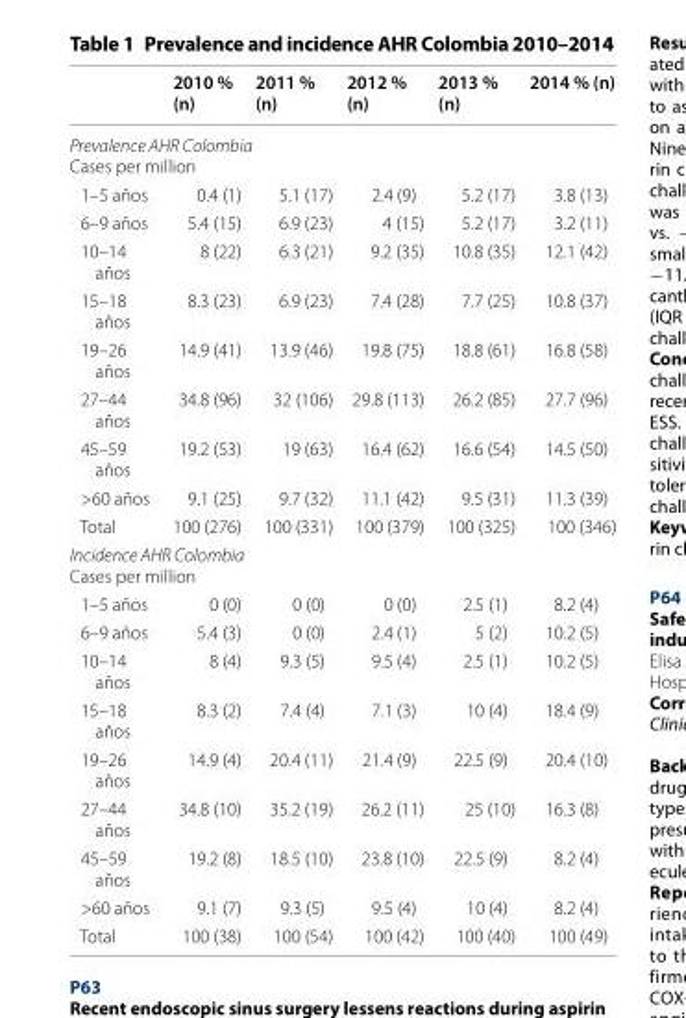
<table><thead><tr><td></td><td>2010 % (n)</td><td>2011 % (n)</td><td>2012 % (n)</td><td>2013 % (n)</td><td>2014 % (n)</td></tr></thead><tbody><tr><td colspan="6">Prevalence AHR Colombia Cases per million</td></tr><tr><td>1–5 años</td><td>0.4 (1)</td><td>5.1 (17)</td><td>2.4 (9)</td><td>5.2 (17)</td><td>3.8 (13)</td></tr><tr><td>6–9 años</td><td>5.4 (15)</td><td>6.9 (23)</td><td>4 (15)</td><td>5.2 (17)</td><td>3.2 (11)</td></tr><tr><td>10–14 años</td><td>8 (22)</td><td>6.3 (21)</td><td>9.2 (35)</td><td>10.8 (35)</td><td>12.1 (42)</td></tr><tr><td>15–18 años</td><td>8.3 (23)</td><td>6.9 (23)</td><td>7.4 (28)</td><td>7.7 (25)</td><td>10.8 (37)</td></tr><tr><td>19–26 años</td><td>14.9 (41)</td><td>13.9 (46)</td><td>19.8 (75)</td><td>18.8 (61)</td><td>16.8 (58)</td></tr><tr><td>27–44 años</td><td>34.8 (96)</td><td>32 (106)</td><td>29.8 (113)</td><td>26.2 (85)</td><td>27.7 (96)</td></tr><tr><td>45–59 años</td><td>19.2 (53)</td><td>19 (63)</td><td>16.4 (62)</td><td>16.6 (54)</td><td>14.5 (50)</td></tr><tr><td>&gt;60 años</td><td>9.1 (25)</td><td>9.7 (32)</td><td>11.1 (42)</td><td>9.5 (31)</td><td>11.3 (39)</td></tr><tr><td>Total</td><td>100 (276)</td><td>100 (331)</td><td>100 (379)</td><td>100 (325)</td><td>100 (346)</td></tr><tr><td colspan="6">Incidence AHR Colombia Cases per million</td></tr><tr><td>1–5 años</td><td>0 (0)</td><td>0 (0)</td><td>0 (0)</td><td>2.5 (1)</td><td>8.2 (4)</td></tr><tr><td>6–9 años</td><td>5.4 (3)</td><td>0 (0)</td><td>2.4 (1)</td><td>5 (2)</td><td>10.2 (5)</td></tr><tr><td>10–14 años</td><td>8 (4)</td><td>9.3 (5)</td><td>9.5 (4)</td><td>2.5 (1)</td><td>10.2 (5)</td></tr><tr><td>15–18 años</td><td>8.3 (2)</td><td>7.4 (4)</td><td>7.1 (3)</td><td>10 (4)</td><td>18.4 (9)</td></tr><tr><td>19–26 años</td><td>14.9 (4)</td><td>20.4 (11)</td><td>21.4 (9)</td><td>22.5 (9)</td><td>20.4 (10)</td></tr><tr><td>27–44 años</td><td>34.8 (10)</td><td>35.2 (19)</td><td>26.2 (11)</td><td>25 (10)</td><td>16.3 (8)</td></tr><tr><td>45–59 años</td><td>19.2 (8)</td><td>18.5 (10)</td><td>23.8 (10)</td><td>22.5 (9)</td><td>8.2 (4)</td></tr><tr><td>&gt;60 años</td><td>9.1 (7)</td><td>9.3 (5)</td><td>9.5 (4)</td><td>10 (4)</td><td>8.2 (4)</td></tr><tr><td>Total</td><td>100 (38)</td><td>100 (54)</td><td>100 (42)</td><td>100 (40)</td><td>100 (49)</td></tr></tbody></table>